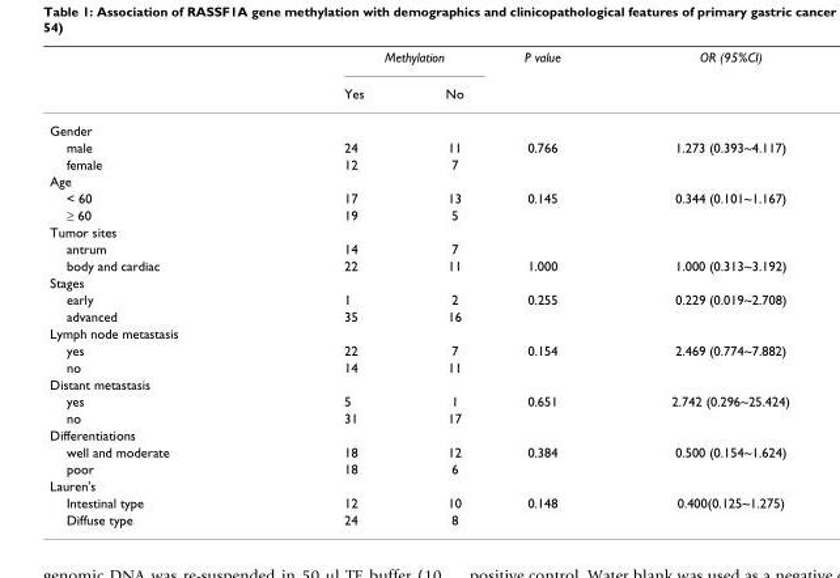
<table><thead><tr><td rowspan="2"></td><td colspan="2">Methylation</td><td rowspan="2">P value</td><td rowspan="2">OR (95%CI)</td></tr><tr><td>Yes</td><td>No</td></tr></thead><tbody><tr><td colspan="5">Gender</td></tr><tr><td>male</td><td>24</td><td>11</td><td>0.766</td><td>1.273 (0.393~4.117)</td></tr><tr><td>female</td><td>12</td><td>7</td><td></td><td></td></tr><tr><td colspan="5">Age</td></tr><tr><td>&lt; 60</td><td>17</td><td>13</td><td>0.145</td><td>0.344 (0.101~1.167)</td></tr><tr><td>≥ 60</td><td>19</td><td>5</td><td></td><td></td></tr><tr><td colspan="5">Tumor sites</td></tr><tr><td>antrum</td><td>14</td><td>7</td><td></td><td></td></tr><tr><td>body and cardiac</td><td>22</td><td>11</td><td>1.000</td><td>1.000 (0.313~3.192)</td></tr><tr><td colspan="5">Stages</td></tr><tr><td>early</td><td>1</td><td>2</td><td>0.255</td><td>0.229 (0.019~2.708)</td></tr><tr><td>advanced</td><td>35</td><td>16</td><td></td><td></td></tr><tr><td colspan="5">Lymph node metastasis</td></tr><tr><td>yes</td><td>22</td><td>7</td><td>0.154</td><td>2.469 (0.774~7.882)</td></tr><tr><td>no</td><td>14</td><td>11</td><td></td><td></td></tr><tr><td colspan="5">Distant metastasis</td></tr><tr><td>yes</td><td>5</td><td>1</td><td>0.651</td><td>2.742 (0.296~25.424)</td></tr><tr><td>no</td><td>31</td><td>17</td><td></td><td></td></tr><tr><td colspan="5">Differentiations</td></tr><tr><td>well and moderate</td><td>18</td><td>12</td><td>0.384</td><td>0.500 (0.154~1.624)</td></tr><tr><td>poor</td><td>18</td><td>6</td><td></td><td></td></tr><tr><td colspan="5">Lauren&#x27;s</td></tr><tr><td>Intestinal type</td><td>12</td><td>10</td><td>0.148</td><td>0.400(0.125~1.275)</td></tr><tr><td>Diffuse type</td><td>24</td><td>8</td><td></td><td></td></tr></tbody></table>